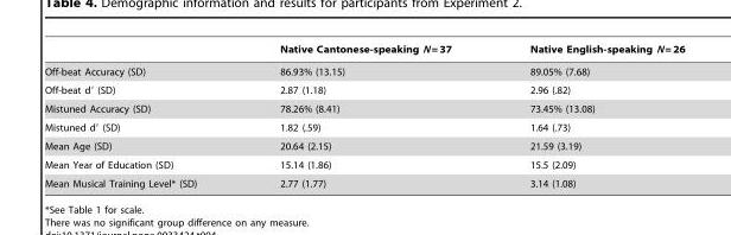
<table><thead><tr><td></td><td>Native Cantonese-speaking N = 37</td><td>Native English-speaking N = 26</td></tr></thead><tbody><tr><td>Off-beat Accuracy (SD)</td><td>86.93% (13.15)</td><td>89.05% (7.68)</td></tr><tr><td>Off-beat d′ (SD)</td><td>2.87 (1.18)</td><td>2.96 (.82)</td></tr><tr><td>Mistuned Accuracy (SD)</td><td>78.26% (8.41)</td><td>73.45% (13.08)</td></tr><tr><td>Mistuned d′ (SD)</td><td>1.82 (.59)</td><td>1.64 (.73)</td></tr><tr><td>Mean Age (SD)</td><td>20.64 (2.15)</td><td>21.59 (3.19)</td></tr><tr><td>Mean Year of Education (SD)</td><td>15.14 (1.86)</td><td>15.5 (2.09)</td></tr><tr><td>Mean Musical Training Level* (SD)</td><td>2.77 (1.77)</td><td>3.14 (1.08)</td></tr></tbody></table>